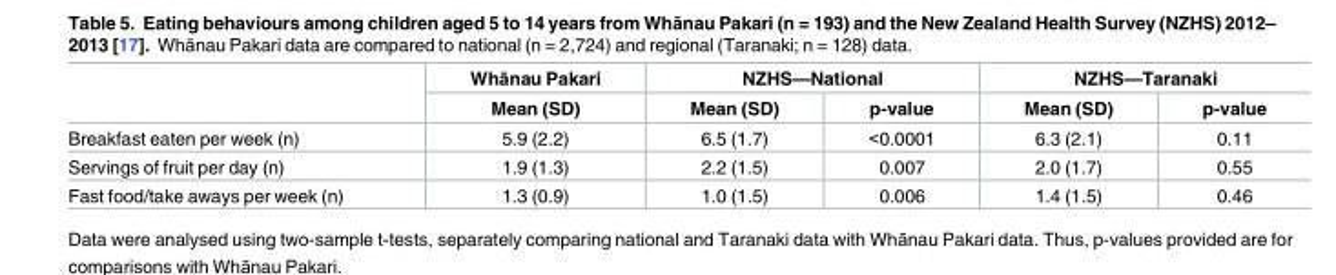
<table><thead><tr><td rowspan="2"></td><td rowspan="2">Whānau Pakari Mean (SD)</td><td colspan="2">NZHS—National</td><td colspan="2">NZHS—Taranaki</td></tr><tr><td>Mean (SD)</td><td>p-value</td><td>Mean (SD)</td><td>p-value</td></tr></thead><tbody><tr><td>Breakfast eaten per week (n)</td><td>5.9 (2.2)</td><td>6.5 (1.7)</td><td>&lt;0.0001</td><td>6.3 (2.1)</td><td>0.11</td></tr><tr><td>Servings of fruit per day (n)</td><td>1.9 (1.3)</td><td>2.2 (1.5)</td><td>0.007</td><td>2.0 (1.7)</td><td>0.55</td></tr><tr><td>Fast food/take aways per week (n)</td><td>1.3 (0.9)</td><td>1.0 (1.5)</td><td>0.006</td><td>1.4 (1.5)</td><td>0.46</td></tr></tbody></table>